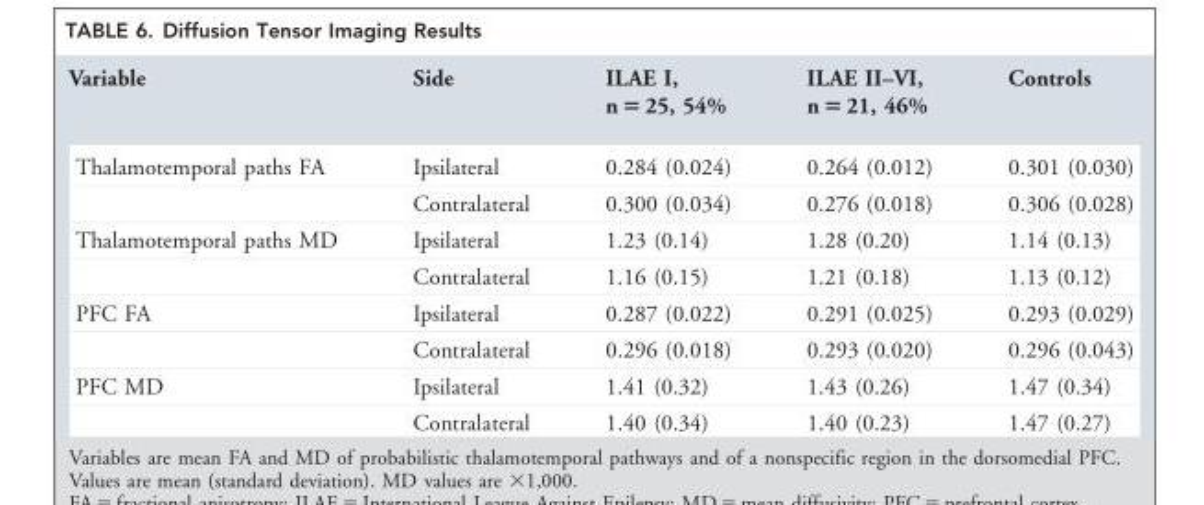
<table><thead><tr><td>Variable</td><td>Side</td><td>ILAE I, n = 25, 54%</td><td>ILAE II–VI, n = 21, 46%</td><td>Controls</td></tr></thead><tbody><tr><td rowspan="2">Thalamotemporal paths FA</td><td>Ipsilateral</td><td>0.284 (0.024)</td><td>0.264 (0.012)</td><td>0.301 (0.030)</td></tr><tr><td>Contralateral</td><td>0.300 (0.034)</td><td>0.276 (0.018)</td><td>0.306 (0.028)</td></tr><tr><td rowspan="2">Thalamotemporal paths MD</td><td>Ipsilateral</td><td>1.23 (0.14)</td><td>1.28 (0.20)</td><td>1.14 (0.13)</td></tr><tr><td>Contralateral</td><td>1.16 (0.15)</td><td>1.21 (0.18)</td><td>1.13 (0.12)</td></tr><tr><td rowspan="2">PFC FA</td><td>Ipsilateral</td><td>0.287 (0.022)</td><td>0.291 (0.025)</td><td>0.293 (0.029)</td></tr><tr><td>Contralateral</td><td>0.296 (0.018)</td><td>0.293 (0.020)</td><td>0.296 (0.043)</td></tr><tr><td rowspan="2">PFC MD</td><td>Ipsilateral</td><td>1.41 (0.32)</td><td>1.43 (0.26)</td><td>1.47 (0.34)</td></tr><tr><td>Contralateral</td><td>1.40 (0.34)</td><td>1.40 (0.23)</td><td>1.47 (0.27)</td></tr></tbody></table>